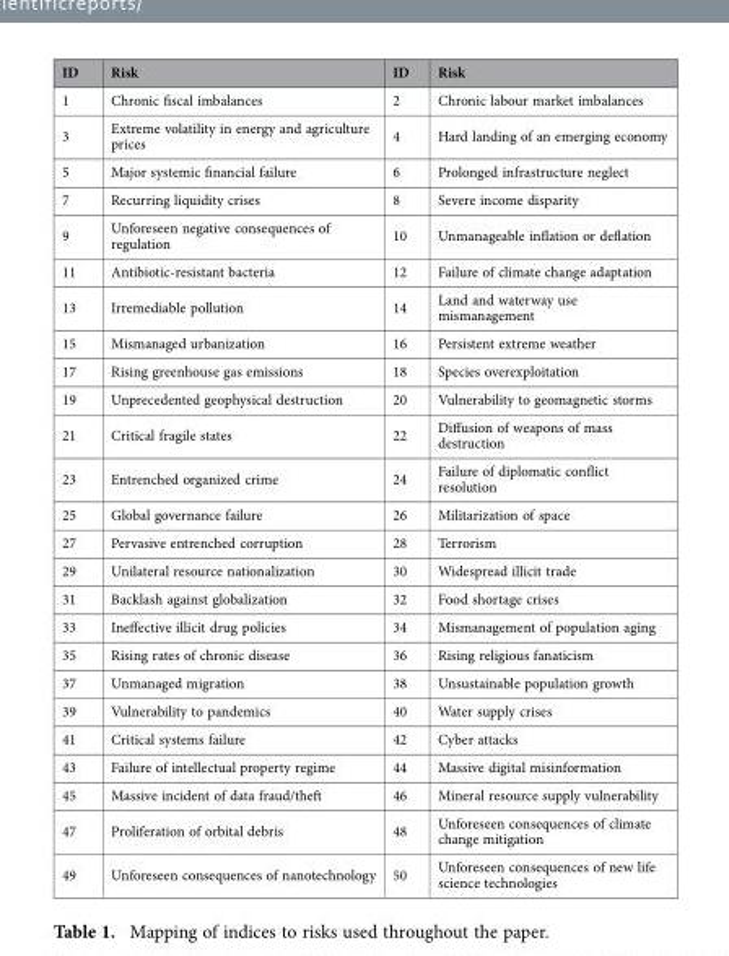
<table><thead><tr><td>ID</td><td>Risk</td><td>ID</td><td>Risk</td></tr></thead><tbody><tr><td>1</td><td>Chronic fiscal imbalances</td><td>2</td><td>Chronic labour market imbalances</td></tr><tr><td>3</td><td>Extreme volatility in energy and agriculture prices</td><td>4</td><td>Hard landing of an emerging economy</td></tr><tr><td>5</td><td>Major systemic financial failure</td><td>6</td><td>Prolonged infrastructure neglect</td></tr><tr><td>7</td><td>Recurring liquidity crises</td><td>8</td><td>Severe income disparity</td></tr><tr><td>9</td><td>Unforeseen negative consequences of regulation</td><td>10</td><td>Unmanageable inflation or deflation</td></tr><tr><td>11</td><td>Antibiotic-resistant bacteria</td><td>12</td><td>Failure of climate change adaptation</td></tr><tr><td>13</td><td>Irremediable pollution</td><td>14</td><td>Land and waterway use mismanagement</td></tr><tr><td>15</td><td>Mismanaged urbanization</td><td>16</td><td>Persistent extreme weather</td></tr><tr><td>17</td><td>Rising greenhouse gas emissions</td><td>18</td><td>Species overexploitation</td></tr><tr><td>19</td><td>Unprecedented geophysical destruction</td><td>20</td><td>Vulnerability to geomagnetic storms</td></tr><tr><td>21</td><td>Critical fragile states</td><td>22</td><td>Diffusion of weapons of mass destruction</td></tr><tr><td>23</td><td>Entrenched organized crime</td><td>24</td><td>Failure of diplomatic conflict resolution</td></tr><tr><td>25</td><td>Global governance failure</td><td>26</td><td>Militarization of space</td></tr><tr><td>27</td><td>Pervasive entrenched corruption</td><td>28</td><td>Terrorism</td></tr><tr><td>29</td><td>Unilateral resource nationalization</td><td>30</td><td>Widespread illicit trade</td></tr><tr><td>31</td><td>Backlash against globalization</td><td>32</td><td>Food shortage crises</td></tr><tr><td>33</td><td>Ineffective illicit drug policies</td><td>34</td><td>Mismanagement of population aging</td></tr><tr><td>35</td><td>Rising rates of chronic disease</td><td>36</td><td>Rising religious fanaticism</td></tr><tr><td>37</td><td>Unmanaged migration</td><td>38</td><td>Unsustainable population growth</td></tr><tr><td>39</td><td>Vulnerability to pandemics</td><td>40</td><td>Water supply crises</td></tr><tr><td>41</td><td>Critical systems failure</td><td>42</td><td>Cyber attacks</td></tr><tr><td>43</td><td>Failure of intellectual property regime</td><td>44</td><td>Massive digital misinformation</td></tr><tr><td>45</td><td>Massive incident of data fraud/theft</td><td>46</td><td>Mineral resource supply vulnerability</td></tr><tr><td>47</td><td>Proliferation of orbital debris</td><td>48</td><td>Unforeseen consequences of climate change mitigation</td></tr><tr><td>49</td><td>Unforeseen consequences of nanotechnology</td><td>50</td><td>Unforeseen consequences of new life science technologies</td></tr></tbody></table>